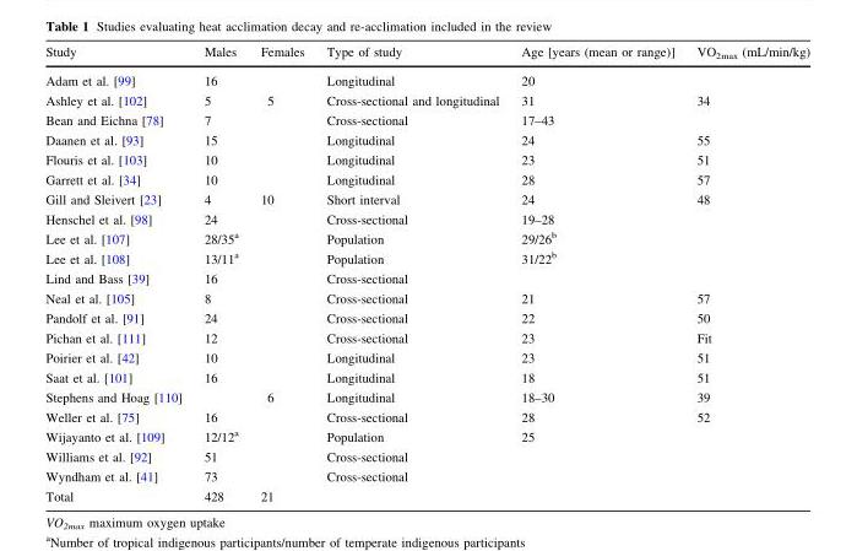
<table><thead><tr><td>Study</td><td>Males</td><td>Females</td><td>Type of study</td><td>Age [years (mean or range)]</td><td>VO<sub>2max</sub> (mL/min/kg)</td></tr></thead><tbody><tr><td>Adam et al. [99]</td><td>16</td><td></td><td>Longitudinal</td><td>20</td><td></td></tr><tr><td>Ashley et al. [102]</td><td>5</td><td>5</td><td>Cross-sectional and longitudinal</td><td>31</td><td>34</td></tr><tr><td>Bean and Eichna [78]</td><td>7</td><td></td><td>Cross-sectional</td><td>17–43</td><td></td></tr><tr><td>Daanen et al. [93]</td><td>15</td><td></td><td>Longitudinal</td><td>24</td><td>55</td></tr><tr><td>Flouris et al. [103]</td><td>10</td><td></td><td>Longitudinal</td><td>23</td><td>51</td></tr><tr><td>Garrett et al. [34]</td><td>10</td><td></td><td>Longitudinal</td><td>28</td><td>57</td></tr><tr><td>Gill and Sleivert [23]</td><td>4</td><td>10</td><td>Short interval</td><td>24</td><td>48</td></tr><tr><td>Henschel et al. [98]</td><td>24</td><td></td><td>Cross-sectional</td><td>19–28</td><td></td></tr><tr><td>Lee et al. [107]</td><td>28/35<sup>a</sup></td><td></td><td>Population</td><td>29/26<sup>b</sup></td><td></td></tr><tr><td>Lee et al. [108]</td><td>13/11<sup>a</sup></td><td></td><td>Population</td><td>31/22<sup>b</sup></td><td></td></tr><tr><td>Lind and Bass [39]</td><td>16</td><td></td><td>Cross-sectional</td><td></td><td></td></tr><tr><td>Neal et al. [105]</td><td>8</td><td></td><td>Cross-sectional</td><td>21</td><td>57</td></tr><tr><td>Pandolf et al. [91]</td><td>24</td><td></td><td>Cross-sectional</td><td>22</td><td>50</td></tr><tr><td>Pichan et al. [111]</td><td>12</td><td></td><td>Cross-sectional</td><td>23</td><td>Fit</td></tr><tr><td>Poirier et al. [42]</td><td>10</td><td></td><td>Longitudinal</td><td>23</td><td>51</td></tr><tr><td>Saat et al. [101]</td><td>16</td><td></td><td>Longitudinal</td><td>18</td><td>51</td></tr><tr><td>Stephens and Hoag [110]</td><td></td><td>6</td><td>Longitudinal</td><td>18–30</td><td>39</td></tr><tr><td>Weller et al. [75]</td><td>16</td><td></td><td>Cross-sectional</td><td>28</td><td>52</td></tr><tr><td>Wijayanto et al. [109]</td><td>12/12<sup>a</sup></td><td></td><td>Population</td><td>25</td><td></td></tr><tr><td>Williams et al. [92]</td><td>51</td><td></td><td>Cross-sectional</td><td></td><td></td></tr><tr><td>Wyndham et al. [41]</td><td>73</td><td></td><td>Cross-sectional</td><td></td><td></td></tr><tr><td>Total</td><td>428</td><td>21</td><td></td><td></td><td></td></tr></tbody></table>